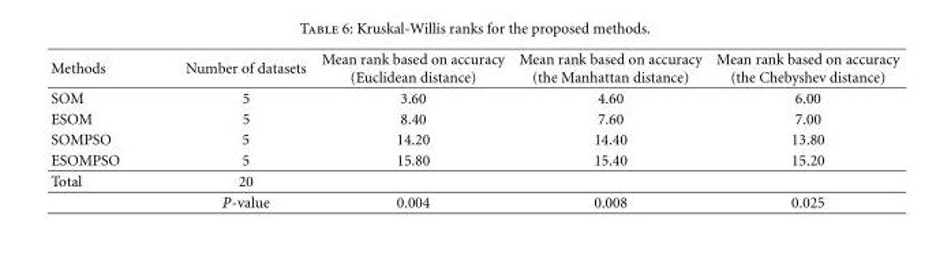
<table><thead><tr><td>Methods</td><td>Number of datasets</td><td>Mean rank based on accuracy (Euclidean distance)</td><td>Mean rank based on accuracy (the Manhattan distance)</td><td>Mean rank based on accuracy (the Chebyshev distance)</td></tr></thead><tbody><tr><td>SOM</td><td>5</td><td>3.60</td><td>4.60</td><td>6.00</td></tr><tr><td>ESOM</td><td>5</td><td>8.40</td><td>7.60</td><td>7.00</td></tr><tr><td>SOMPSO</td><td>5</td><td>14.20</td><td>14.40</td><td>13.80</td></tr><tr><td>ESOMPSO</td><td>5</td><td>15.80</td><td>15.40</td><td>15.20</td></tr><tr><td rowspan="2">Total</td><td>20</td><td></td><td></td><td></td></tr><tr><td>P-value</td><td>0.004</td><td>0.008</td><td>0.025</td></tr></tbody></table>